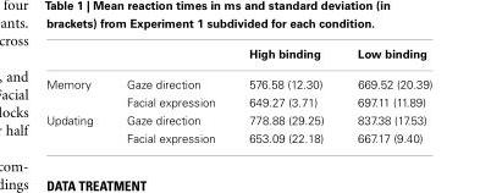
<table><thead><tr><td></td><td></td><td>High binding</td><td>Low binding</td></tr></thead><tbody><tr><td rowspan="2">Memory</td><td>Gaze direction</td><td>576.58 (12.30)</td><td>669.52 (20.39)</td></tr><tr><td>Facial expression</td><td>649.27 (3.71)</td><td>697.11 (11.89)</td></tr><tr><td rowspan="2">Updating</td><td>Gaze direction</td><td>778.88 (29.25)</td><td>837.38 (17.53)</td></tr><tr><td>Facial expression</td><td>653.09 (22.18)</td><td>667.17 (9.40)</td></tr></tbody></table>